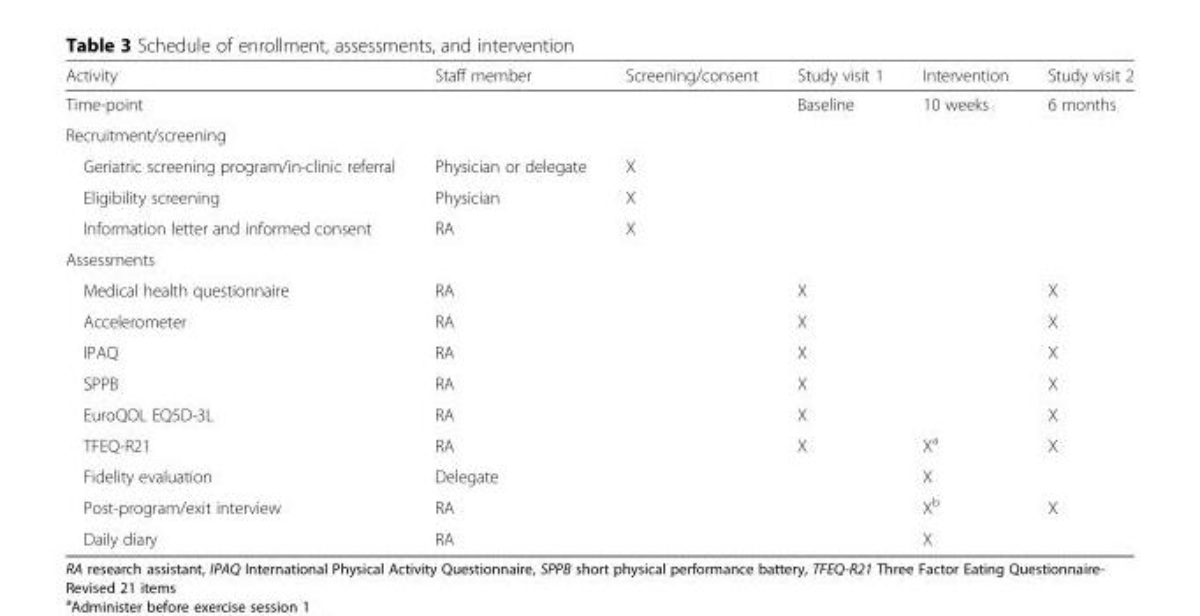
<table><thead><tr><td>Activity</td><td>Staff member</td><td>Screening/consent</td><td>Study visit 1</td><td>Intervention</td><td>Study visit 2</td></tr></thead><tbody><tr><td>Time-point</td><td></td><td></td><td>Baseline</td><td>10 weeks</td><td>6 months</td></tr><tr><td colspan="6">Recruitment/screening</td></tr><tr><td>Geriatric screening program/in-clinic referral</td><td>Physician or delegate</td><td>X</td><td></td><td></td><td></td></tr><tr><td>Eligibility screening</td><td>Physician</td><td>X</td><td></td><td></td><td></td></tr><tr><td>Information letter and informed consent</td><td>RA</td><td>X</td><td></td><td></td><td></td></tr><tr><td colspan="6">Assessments</td></tr><tr><td>Medical health questionnaire</td><td>RA</td><td></td><td>X</td><td></td><td>X</td></tr><tr><td>Accelerometer</td><td>RA</td><td></td><td>X</td><td></td><td>X</td></tr><tr><td>IPAQ</td><td>RA</td><td></td><td>X</td><td></td><td>X</td></tr><tr><td>SPPB</td><td>RA</td><td></td><td>X</td><td></td><td>X</td></tr><tr><td>EuroQOL EQ5D-3L</td><td>RA</td><td></td><td>X</td><td></td><td>X</td></tr><tr><td>TFEQ-R21</td><td>RA</td><td></td><td>X</td><td>X<sup>a</sup></td><td>X</td></tr><tr><td>Fidelity evaluation</td><td>Delegate</td><td></td><td></td><td>X</td><td></td></tr><tr><td>Post-program/exit interview</td><td>RA</td><td></td><td></td><td>X<sup>b</sup></td><td>X</td></tr><tr><td>Daily diary</td><td>RA</td><td></td><td></td><td>X</td><td></td></tr></tbody></table>